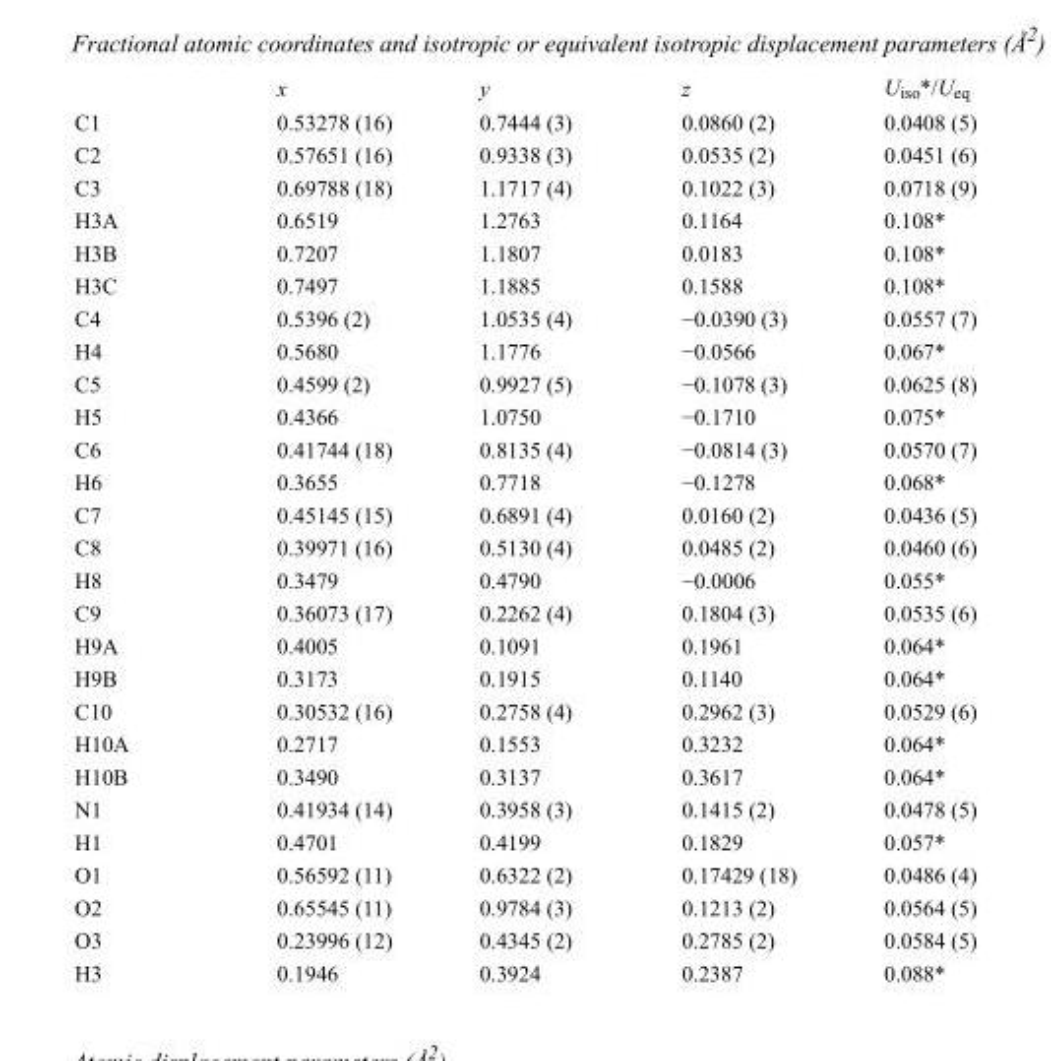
<table><thead><tr><td></td><td>x</td><td>y</td><td>z</td><td>U<sub>iso</sub>*/U<sub>eq</sub></td></tr></thead><tbody><tr><td>C1</td><td>0.53278 (16)</td><td>0.7444 (3)</td><td>0.0860 (2)</td><td>0.0408 (5)</td></tr><tr><td>C2</td><td>0.57651 (16)</td><td>0.9338 (3)</td><td>0.0535 (2)</td><td>0.0451 (6)</td></tr><tr><td>C3</td><td>0.69788 (18)</td><td>1.1717 (4)</td><td>0.1022 (3)</td><td>0.0718 (9)</td></tr><tr><td>H3A</td><td>0.6519</td><td>1.2763</td><td>0.1164</td><td>0.108*</td></tr><tr><td>H3B</td><td>0.7207</td><td>1.1807</td><td>0.0183</td><td>0.108*</td></tr><tr><td>H3C</td><td>0.7497</td><td>1.1885</td><td>0.1588</td><td>0.108*</td></tr><tr><td>C4</td><td>0.5396 (2)</td><td>1.0535 (4)</td><td>−0.0390 (3)</td><td>0.0557 (7)</td></tr><tr><td>H4</td><td>0.5680</td><td>1.1776</td><td>−0.0566</td><td>0.067*</td></tr><tr><td>C5</td><td>0.4599 (2)</td><td>0.9927 (5)</td><td>−0.1078 (3)</td><td>0.0625 (8)</td></tr><tr><td>H5</td><td>0.4366</td><td>1.0750</td><td>−0.1710</td><td>0.075*</td></tr><tr><td>C6</td><td>0.41744 (18)</td><td>0.8135 (4)</td><td>−0.0814 (3)</td><td>0.0570 (7)</td></tr><tr><td>H6</td><td>0.3655</td><td>0.7718</td><td>−0.1278</td><td>0.068*</td></tr><tr><td>C7</td><td>0.45145 (15)</td><td>0.6891 (4)</td><td>0.0160 (2)</td><td>0.0436 (5)</td></tr><tr><td>C8</td><td>0.39971 (16)</td><td>0.5130 (4)</td><td>0.0485 (2)</td><td>0.0460 (6)</td></tr><tr><td>H8</td><td>0.3479</td><td>0.4790</td><td>−0.0006</td><td>0.055*</td></tr><tr><td>C9</td><td>0.36073 (17)</td><td>0.2262 (4)</td><td>0.1804 (3)</td><td>0.0535 (6)</td></tr><tr><td>H9A</td><td>0.4005</td><td>0.1091</td><td>0.1961</td><td>0.064*</td></tr><tr><td>H9B</td><td>0.3173</td><td>0.1915</td><td>0.1140</td><td>0.064*</td></tr><tr><td>C10</td><td>0.30532 (16)</td><td>0.2758 (4)</td><td>0.2962 (3)</td><td>0.0529 (6)</td></tr><tr><td>H10A</td><td>0.2717</td><td>0.1553</td><td>0.3232</td><td>0.064*</td></tr><tr><td>H10B</td><td>0.3490</td><td>0.3137</td><td>0.3617</td><td>0.064*</td></tr><tr><td>N1</td><td>0.41934 (14)</td><td>0.3958 (3)</td><td>0.1415 (2)</td><td>0.0478 (5)</td></tr><tr><td>H1</td><td>0.4701</td><td>0.4199</td><td>0.1829</td><td>0.057*</td></tr><tr><td>O1</td><td>0.56592 (11)</td><td>0.6322 (2)</td><td>0.17429 (18)</td><td>0.0486 (4)</td></tr><tr><td>O2</td><td>0.65545 (11)</td><td>0.9784 (3)</td><td>0.1213 (2)</td><td>0.0564 (5)</td></tr><tr><td>O3</td><td>0.23996 (12)</td><td>0.4345 (2)</td><td>0.2785 (2)</td><td>0.0584 (5)</td></tr><tr><td>H3</td><td>0.1946</td><td>0.3924</td><td>0.2387</td><td>0.088*</td></tr></tbody></table>